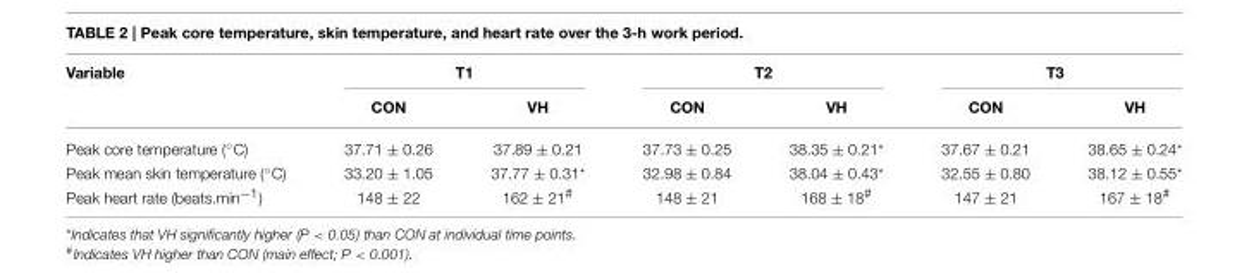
<table><thead><tr><td rowspan="2">Variable</td><td colspan="2">T1</td><td colspan="2">T2</td><td colspan="2">T3</td></tr><tr><td>CON</td><td>VH</td><td>CON</td><td>VH</td><td>CON</td><td>VH</td></tr></thead><tbody><tr><td>Peak core temperature (◦C)</td><td>37.71 ± 0.26</td><td>37.89 ± 0.21</td><td>37.73 ± 0.25</td><td>38.35 ± 0.21*</td><td>37.67 ± 0.21</td><td>38.65 ± 0.24*</td></tr><tr><td>Peak mean skin temperature (◦C)</td><td>33.20 ± 1.05</td><td>37.77 ± 0.31*</td><td>32.98 ± 0.84</td><td>38.04 ± 0.43*</td><td>32.55 ± 0.80</td><td>38.12 ± 0.55*</td></tr><tr><td>Peak heart rate (beats.min<sup>−1</sup>)</td><td>148 ± 22</td><td>162 ± 21<sup>#</sup></td><td>148 ± 21</td><td>168 ± 18<sup>#</sup></td><td>147 ± 21</td><td>167 ± 18<sup>#</sup></td></tr></tbody></table>